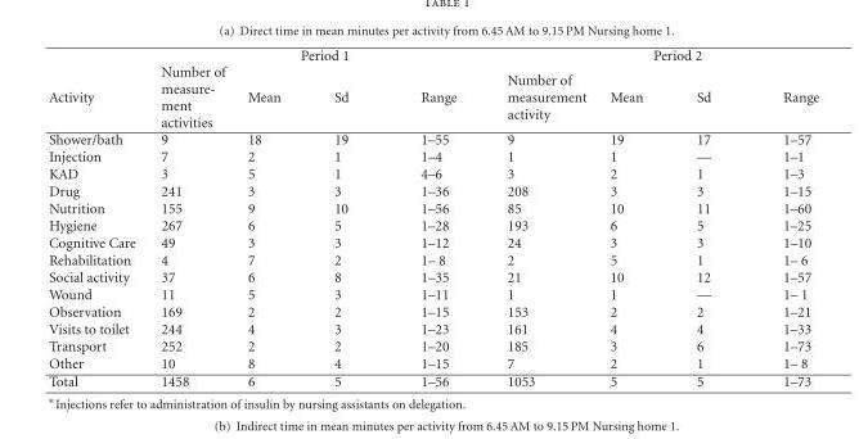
<table><thead><tr><td rowspan="2">Activity</td><td colspan="4">Period 1</td><td colspan="4">Period 2</td></tr><tr><td>Number of measure- ment activities</td><td>Mean</td><td>Sd</td><td>Range</td><td>Number of measurement activity</td><td>Mean</td><td>Sd</td><td>Range</td></tr></thead><tbody><tr><td>Shower/bath</td><td>9</td><td>18</td><td>19</td><td>1–55</td><td>9</td><td>19</td><td>17</td><td>1–57</td></tr><tr><td>Injection</td><td>7</td><td>2</td><td>1</td><td>1–4</td><td>1</td><td>1</td><td>—</td><td>1–1</td></tr><tr><td>KAD</td><td>3</td><td>5</td><td>1</td><td>4–6</td><td>3</td><td>2</td><td>1</td><td>1–3</td></tr><tr><td>Drug</td><td>241</td><td>3</td><td>3</td><td>1–36</td><td>208</td><td>3</td><td>3</td><td>1–15</td></tr><tr><td>Nutrition</td><td>155</td><td>9</td><td>10</td><td>1–56</td><td>85</td><td>10</td><td>11</td><td>1–60</td></tr><tr><td>Hygiene</td><td>267</td><td>6</td><td>5</td><td>1–28</td><td>193</td><td>6</td><td>5</td><td>1–25</td></tr><tr><td>Cognitive Care</td><td>49</td><td>3</td><td>3</td><td>1–12</td><td>24</td><td>3</td><td>3</td><td>1–10</td></tr><tr><td>Rehabilitation</td><td>4</td><td>7</td><td>2</td><td>1– 8</td><td>2</td><td>5</td><td>1</td><td>1– 6</td></tr><tr><td>Social activity</td><td>37</td><td>6</td><td>8</td><td>1–35</td><td>21</td><td>10</td><td>12</td><td>1–57</td></tr><tr><td>Wound</td><td>11</td><td>5</td><td>3</td><td>1–11</td><td>1</td><td>1</td><td>—</td><td>1– 1</td></tr><tr><td>Observation</td><td>169</td><td>2</td><td>2</td><td>1–15</td><td>153</td><td>2</td><td>2</td><td>1–21</td></tr><tr><td>Visits to toilet</td><td>244</td><td>4</td><td>3</td><td>1–23</td><td>161</td><td>4</td><td>4</td><td>1–33</td></tr><tr><td>Transport</td><td>252</td><td>2</td><td>2</td><td>1–20</td><td>185</td><td>3</td><td>6</td><td>1–73</td></tr><tr><td>Other</td><td>10</td><td>8</td><td>4</td><td>1–15</td><td>7</td><td>2</td><td>1</td><td>1– 8</td></tr><tr><td>Total</td><td>1458</td><td>6</td><td>5</td><td>1–56</td><td>1053</td><td>5</td><td>5</td><td>1–73</td></tr></tbody></table>